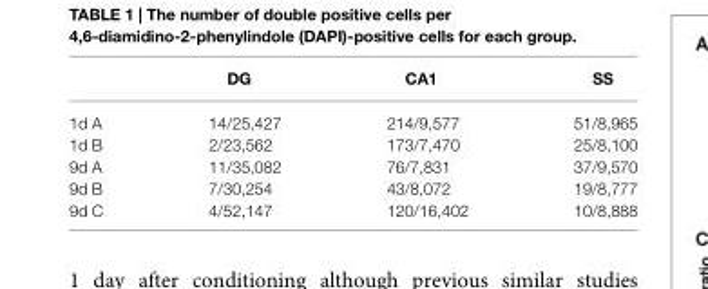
<table><thead><tr><td></td><td>DG</td><td>CA1</td><td>SS</td></tr></thead><tbody><tr><td>1d A</td><td>14/25,427</td><td>214/9,577</td><td>51/8,965</td></tr><tr><td>1d B</td><td>2/23,562</td><td>173/7,470</td><td>25/8,100</td></tr><tr><td>9d A</td><td>11/35,082</td><td>76/7,831</td><td>37/9,570</td></tr><tr><td>9d B</td><td>7/30,254</td><td>43/8,072</td><td>19/8,777</td></tr><tr><td>9d C</td><td>4/52,147</td><td>120/16,402</td><td>10/8,888</td></tr></tbody></table>